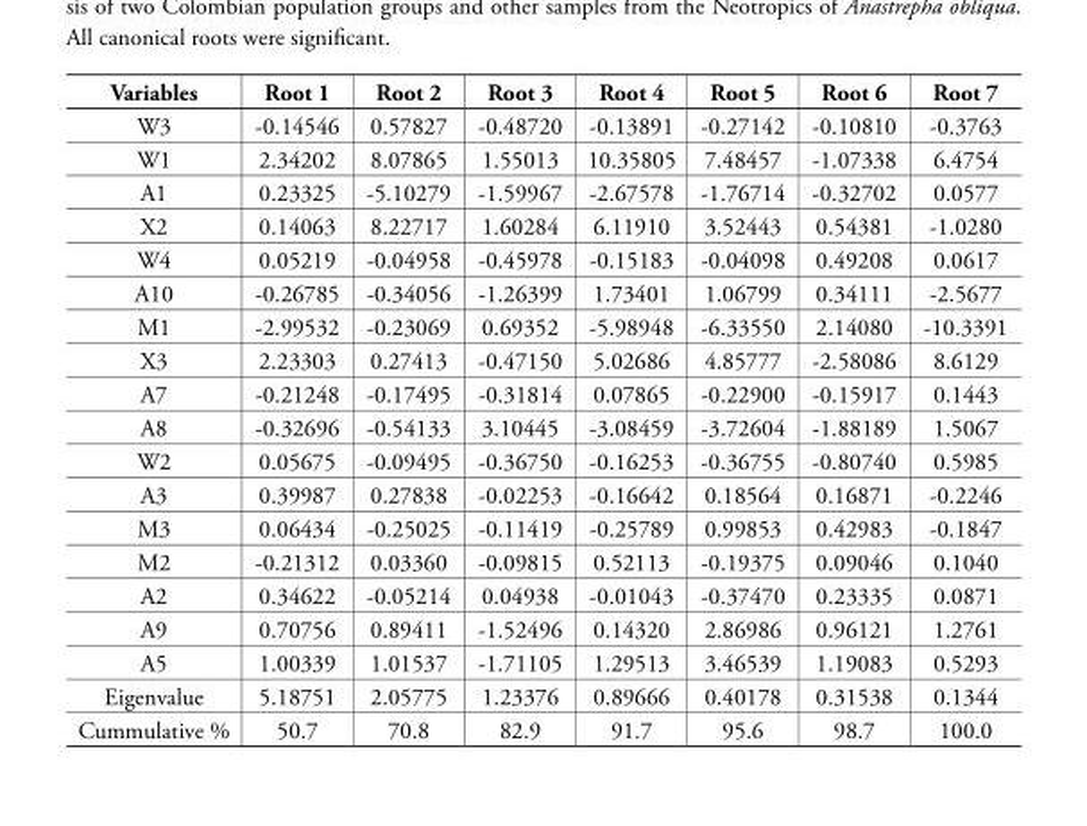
<table><thead><tr><td>Variables</td><td>Root 1</td><td>Root 2</td><td>Root 3</td><td>Root 4</td><td>Root 5</td><td>Root 6</td><td>Root 7</td></tr></thead><tbody><tr><td>W3</td><td>-0.14546</td><td>0.57827</td><td>-0.48720</td><td>-0.13891</td><td>-0.27142</td><td>-0.10810</td><td>-0.3763</td></tr><tr><td>W1</td><td>2.34202</td><td>8.07865</td><td>1.55013</td><td>10.35805</td><td>7.48457</td><td>-1.07338</td><td>6.4754</td></tr><tr><td>A1</td><td>0.23325</td><td>-5.10279</td><td>-1.59967</td><td>-2.67578</td><td>-1.76714</td><td>-0.32702</td><td>0.0577</td></tr><tr><td>X2</td><td>0.14063</td><td>8.22717</td><td>1.60284</td><td>6.11910</td><td>3.52443</td><td>0.54381</td><td>-1.0280</td></tr><tr><td>W4</td><td>0.05219</td><td>-0.04958</td><td>-0.45978</td><td>-0.15183</td><td>-0.04098</td><td>0.49208</td><td>0.0617</td></tr><tr><td>A10</td><td>-0.26785</td><td>-0.34056</td><td>-1.26399</td><td>1.73401</td><td>1.06799</td><td>0.34111</td><td>-2.5677</td></tr><tr><td>M1</td><td>-2.99532</td><td>-0.23069</td><td>0.69352</td><td>-5.98948</td><td>-6.33550</td><td>2.14080</td><td>-10.3391</td></tr><tr><td>X3</td><td>2.23303</td><td>0.27413</td><td>-0.47150</td><td>5.02686</td><td>4.85777</td><td>-2.58086</td><td>8.6129</td></tr><tr><td>A7</td><td>-0.21248</td><td>-0.17495</td><td>-0.31814</td><td>0.07865</td><td>-0.22900</td><td>-0.15917</td><td>0.1443</td></tr><tr><td>A8</td><td>-0.32696</td><td>-0.54133</td><td>3.10445</td><td>-3.08459</td><td>-3.72604</td><td>-1.88189</td><td>1.5067</td></tr><tr><td>W2</td><td>0.05675</td><td>-0.09495</td><td>-0.36750</td><td>-0.16253</td><td>-0.36755</td><td>-0.80740</td><td>0.5985</td></tr><tr><td>A3</td><td>0.39987</td><td>0.27838</td><td>-0.02253</td><td>-0.16642</td><td>0.18564</td><td>0.16871</td><td>-0.2246</td></tr><tr><td>M3</td><td>0.06434</td><td>-0.25025</td><td>-0.11419</td><td>-0.25789</td><td>0.99853</td><td>0.42983</td><td>-0.1847</td></tr><tr><td>M2</td><td>-0.21312</td><td>0.03360</td><td>-0.09815</td><td>0.52113</td><td>-0.19375</td><td>0.09046</td><td>0.1040</td></tr><tr><td>A2</td><td>0.34622</td><td>-0.05214</td><td>0.04938</td><td>-0.01043</td><td>-0.37470</td><td>0.23335</td><td>0.0871</td></tr><tr><td>A9</td><td>0.70756</td><td>0.89411</td><td>-1.52496</td><td>0.14320</td><td>2.86986</td><td>0.96121</td><td>1.2761</td></tr><tr><td>A5</td><td>1.00339</td><td>1.01537</td><td>-1.71105</td><td>1.29513</td><td>3.46539</td><td>1.19083</td><td>0.5293</td></tr><tr><td>Eigenvalue</td><td>5.18751</td><td>2.05775</td><td>1.23376</td><td>0.89666</td><td>0.40178</td><td>0.31538</td><td>0.1344</td></tr><tr><td>Cummulative %</td><td>50.7</td><td>70.8</td><td>82.9</td><td>91.7</td><td>95.6</td><td>98.7</td><td>100.0</td></tr></tbody></table>